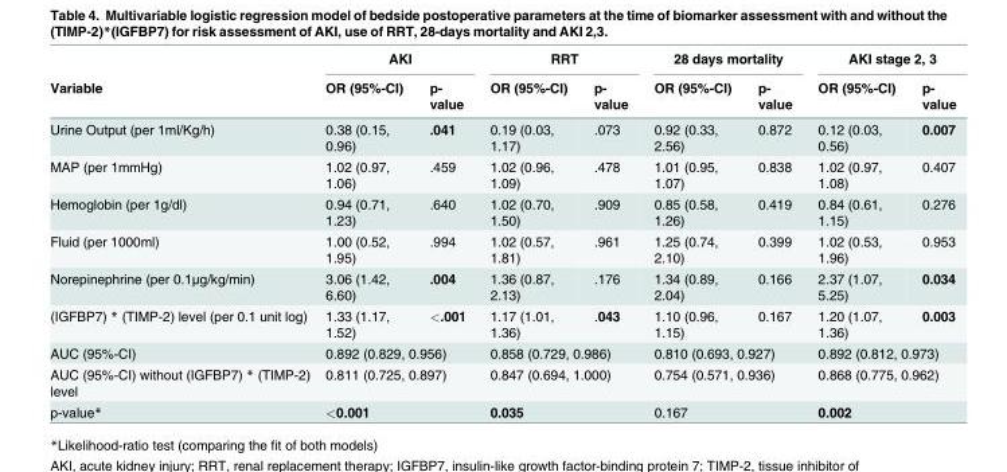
<table><thead><tr><td rowspan="2">Variable</td><td colspan="2">AKI</td><td colspan="2">RRT</td><td colspan="2">28 days mortality</td><td colspan="2">AKI stage 2, 3</td></tr><tr><td>OR (95%-CI)</td><td>p- value</td><td>OR (95%-CI)</td><td>p- value</td><td>OR (95%-CI)</td><td>p- value</td><td>OR (95%-CI)</td><td>p- value</td></tr></thead><tbody><tr><td>Urine Output (per 1ml/Kg/h)</td><td>0.38 (0.15, 0.96)</td><td>.041</td><td>0.19 (0.03, 1.17)</td><td>.073</td><td>0.92 (0.33, 2.56)</td><td>0.872</td><td>0.12 (0.03, 0.56)</td><td>0.007</td></tr><tr><td>MAP (per 1mmHg)</td><td>1.02 (0.97, 1.06)</td><td>.459</td><td>1.02 (0.96, 1.09)</td><td>.478</td><td>1.01 (0.95, 1.07)</td><td>0.838</td><td>1.02 (0.97, 1.08)</td><td>0.407</td></tr><tr><td>Hemoglobin (per 1g/dl)</td><td>0.94 (0.71, 1.23)</td><td>.640</td><td>1.02 (0.70, 1.50)</td><td>.909</td><td>0.85 (0.58, 1.26)</td><td>0.419</td><td>0.84 (0.61, 1.15)</td><td>0.276</td></tr><tr><td>Fluid (per 1000ml)</td><td>1.00 (0.52, 1.95)</td><td>.994</td><td>1.02 (0.57, 1.81)</td><td>.961</td><td>1.25 (0.74, 2.10)</td><td>0.399</td><td>1.02 (0.53, 1.96)</td><td>0.953</td></tr><tr><td>Norepinephrine (per 0.1μg/kg/min)</td><td>3.06 (1.42, 6.60)</td><td>.004</td><td>1.36 (0.87, 2.13)</td><td>.176</td><td>1.34 (0.89, 2.04)</td><td>0.166</td><td>2.37 (1.07, 5.25)</td><td>0.034</td></tr><tr><td>(IGFBP7) * (TIMP-2) level (per 0.1 unit log)</td><td>1.33 (1.17, 1.52)</td><td>&lt;.001</td><td>1.17 (1.01, 1.36)</td><td>.043</td><td>1.10 (0.96, 1.15)</td><td>0.167</td><td>1.20 (1.07, 1.36)</td><td>0.003</td></tr><tr><td>AUC (95%-CI)</td><td colspan="2">0.892 (0.829, 0.956)</td><td colspan="2">0.858 (0.729, 0.986)</td><td colspan="2">0.810 (0.693, 0.927)</td><td colspan="2">0.892 (0.812, 0.973)</td></tr><tr><td>AUC (95%-CI) without (IGFBP7) * (TIMP-2) level</td><td colspan="2">0.811 (0.725, 0.897)</td><td colspan="2">0.847 (0.694, 1.000)</td><td colspan="2">0.754 (0.571, 0.936)</td><td colspan="2">0.868 (0.775, 0.962)</td></tr><tr><td>p-value*</td><td colspan="2">&lt;0.001</td><td colspan="2">0.035</td><td colspan="2">0.167</td><td colspan="2">0.002</td></tr></tbody></table>